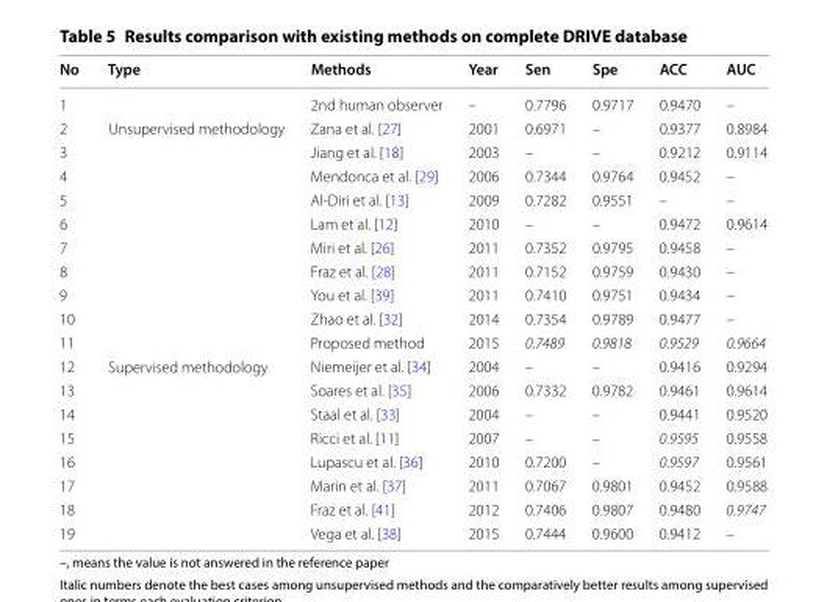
<table><thead><tr><td>No</td><td>Type</td><td>Methods</td><td>Year</td><td>Sen</td><td>Spe</td><td>ACC</td><td>AUC</td></tr></thead><tbody><tr><td>1</td><td></td><td>2nd human observer</td><td>–</td><td>0.7796</td><td>0.9717</td><td>0.9470</td><td>–</td></tr><tr><td>2</td><td rowspan="10">Unsupervised methodology</td><td>Zana et al. [27]</td><td>2001</td><td>0.6971</td><td>–</td><td>0.9377</td><td>0.8984</td></tr><tr><td>3</td><td>Jiang et al. [18]</td><td>2003</td><td>–</td><td>–</td><td>0.9212</td><td>0.9114</td></tr><tr><td>4</td><td>Mendonca et al. [29]</td><td>2006</td><td>0.7344</td><td>0.9764</td><td>0.9452</td><td>–</td></tr><tr><td>5</td><td>Al-Diri et al. [13]</td><td>2009</td><td>0.7282</td><td>0.9551</td><td>–</td><td>–</td></tr><tr><td>6</td><td>Lam et al. [12]</td><td>2010</td><td>–</td><td>–</td><td>0.9472</td><td>0.9614</td></tr><tr><td>7</td><td>Miri et al. [26]</td><td>2011</td><td>0.7352</td><td>0.9795</td><td>0.9458</td><td>–</td></tr><tr><td>8</td><td>Fraz et al. [28]</td><td>2011</td><td>0.7152</td><td>0.9759</td><td>0.9430</td><td>–</td></tr><tr><td>9</td><td>You et al. [39]</td><td>2011</td><td>0.7410</td><td>0.9751</td><td>0.9434</td><td>–</td></tr><tr><td>10</td><td>Zhao et al. [32]</td><td>2014</td><td>0.7354</td><td>0.9789</td><td>0.9477</td><td>–</td></tr><tr><td>11</td><td>Proposed method</td><td>2015</td><td>0.7489</td><td>0.9818</td><td>0.9529</td><td>0.9664</td></tr><tr><td>12</td><td rowspan="8">Supervised methodology</td><td>Niemeijer et al. [34]</td><td>2004</td><td>–</td><td>–</td><td>0.9416</td><td>0.9294</td></tr><tr><td>13</td><td>Soares et al. [35]</td><td>2006</td><td>0.7332</td><td>0.9782</td><td>0.9461</td><td>0.9614</td></tr><tr><td>14</td><td>Staal et al. [33]</td><td>2004</td><td>–</td><td>–</td><td>0.9441</td><td>0.9520</td></tr><tr><td>15</td><td>Ricci et al. [11]</td><td>2007</td><td>–</td><td>–</td><td>0.9595</td><td>0.9558</td></tr><tr><td>16</td><td>Lupascu et al. [36]</td><td>2010</td><td>0.7200</td><td>–</td><td>0.9597</td><td>0.9561</td></tr><tr><td>17</td><td>Marin et al. [37]</td><td>2011</td><td>0.7067</td><td>0.9801</td><td>0.9452</td><td>0.9588</td></tr><tr><td>18</td><td>Fraz et al. [41]</td><td>2012</td><td>0.7406</td><td>0.9807</td><td>0.9480</td><td>0.9747</td></tr><tr><td>19</td><td>Vega et al. [38]</td><td>2015</td><td>0.7444</td><td>0.9600</td><td>0.9412</td><td>–</td></tr></tbody></table>